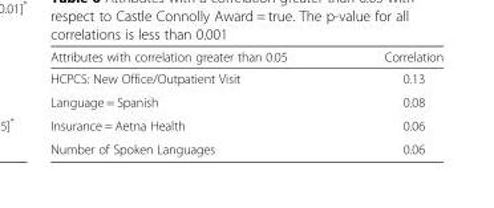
<table><thead><tr><td>Attributes with correlation greater than 0.05</td><td>Correlation</td></tr></thead><tbody><tr><td>HCPCS: New Office/Outpatient Visit</td><td>0.13</td></tr><tr><td>Language = Spanish</td><td>0.08</td></tr><tr><td>Insurance = Aetna Health</td><td>0.06</td></tr><tr><td>Number of Spoken Languages</td><td>0.06</td></tr></tbody></table>